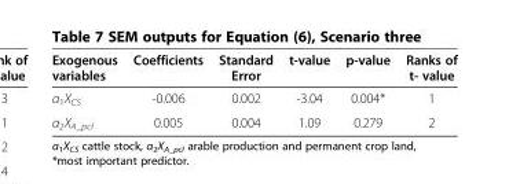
<table><thead><tr><td>Exogenous variables</td><td>Coefficients</td><td>Standard Error</td><td>t-value</td><td>p-value</td><td>Ranks of t- value</td></tr></thead><tbody><tr><td>α<sub>1</sub>X<sub>CS</sub></td><td>-0.006</td><td>0.002</td><td>-3.04</td><td>0.004*</td><td>1</td></tr><tr><td>α<sub>2</sub>X<sub>A_pcl</sub></td><td>0.005</td><td>0.004</td><td>1.09</td><td>0.279</td><td>2</td></tr></tbody></table>